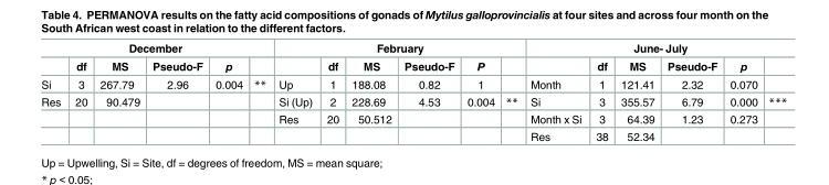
<table><thead><tr><td colspan="6">December</td><td colspan="6">February</td><td colspan="6">June- July</td></tr><tr><td></td><td>df</td><td>MS</td><td>Pseudo-F</td><td>p</td><td></td><td></td><td>df</td><td>MS</td><td>Pseudo-F</td><td>P</td><td></td><td></td><td>df</td><td>MS</td><td>Pseudo-F</td><td>p</td><td></td></tr></thead><tbody><tr><td>Si</td><td>3</td><td>267.79</td><td>2.96</td><td>0.004</td><td>**</td><td>Up</td><td>1</td><td>188.08</td><td>0.82</td><td>1</td><td></td><td>Month</td><td>1</td><td>121.41</td><td>2.32</td><td>0.070</td><td></td></tr><tr><td rowspan="3">Res</td><td>20</td><td>90.479</td><td></td><td></td><td></td><td>Si (Up)</td><td>2</td><td>228.69</td><td>4.53</td><td>0.004</td><td>**</td><td>Si</td><td>3</td><td>355.57</td><td>6.79</td><td>0.000</td><td>***</td></tr><tr><td></td><td></td><td></td><td></td><td></td><td>Res</td><td>20</td><td>50.512</td><td></td><td></td><td></td><td>Month x Si</td><td>3</td><td>64.39</td><td>1.23</td><td>0.273</td><td></td></tr><tr><td></td><td></td><td></td><td></td><td></td><td></td><td></td><td></td><td></td><td></td><td></td><td>Res</td><td>38</td><td>52.34</td><td></td><td></td><td></td></tr></tbody></table>